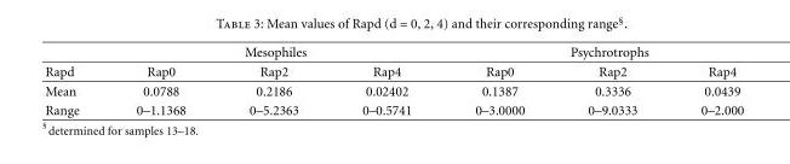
<table><thead><tr><td rowspan="2">Rapd</td><td colspan="3">Mesophiles</td><td colspan="3">Psychrotrophs</td></tr><tr><td>Rap0</td><td>Rap2</td><td>Rap4</td><td>Rap0</td><td>Rap2</td><td>Rap4</td></tr></thead><tbody><tr><td>Mean</td><td>0.0788</td><td>0.2186</td><td>0.02402</td><td>0.1387</td><td>0.3336</td><td>0.0439</td></tr><tr><td>Range</td><td>0–1.1368</td><td>0–5.2363</td><td>0–0.5741</td><td>0–3.0000</td><td>0–9.0333</td><td>0–2.000</td></tr></tbody></table>